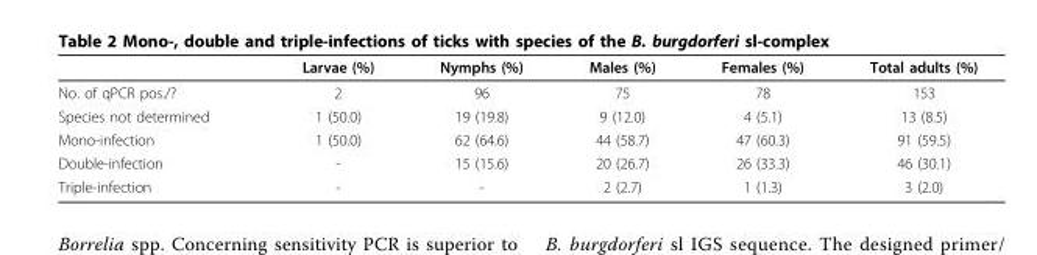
<table><thead><tr><td></td><td>Larvae (%)</td><td>Nymphs (%)</td><td>Males (%)</td><td>Females (%)</td><td>Total adults (%)</td></tr></thead><tbody><tr><td>No. of qPCR pos./?</td><td>2</td><td>96</td><td>75</td><td>78</td><td>153</td></tr><tr><td>Species not determined</td><td>1 (50.0)</td><td>19 (19.8)</td><td>9 (12.0)</td><td>4 (5.1)</td><td>13 (8.5)</td></tr><tr><td>Mono-infection</td><td>1 (50.0)</td><td>62 (64.6)</td><td>44 (58.7)</td><td>47 (60.3)</td><td>91 (59.5)</td></tr><tr><td>Double-infection</td><td>-</td><td>15 (15.6)</td><td>20 (26.7)</td><td>26 (33.3)</td><td>46 (30.1)</td></tr><tr><td>Triple-infection</td><td>-</td><td>-</td><td>2 (2.7)</td><td>1 (1.3)</td><td>3 (2.0)</td></tr></tbody></table>